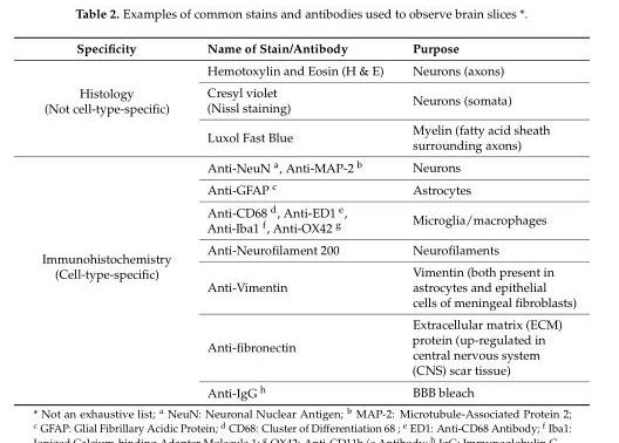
<table><thead><tr><td>Specificity</td><td>Name of Stain/Antibody</td><td>Purpose</td></tr></thead><tbody><tr><td rowspan="3">Histology (Not cell-type-specific)</td><td>Hemotoxylin and Eosin (H &amp; E)</td><td>Neurons (axons)</td></tr><tr><td>Cresyl violet (Nissl staining)</td><td>Neurons (somata)</td></tr><tr><td>Luxol Fast Blue</td><td>Myelin (fatty acid sheath surrounding axons)</td></tr><tr><td rowspan="7">Immunohistochemistry (Cell-type-specific)</td><td>Anti-NeuN <sup>a</sup>, Anti-MAP-2 <sup>b</sup></td><td>Neurons</td></tr><tr><td>Anti-GFAP <sup>c</sup></td><td>Astrocytes</td></tr><tr><td>Anti-CD68 <sup>d</sup>, Anti-ED1 <sup>e</sup>, Anti-Iba1 <sup>f</sup>, Anti-OX42 <sup>g</sup></td><td>Microglia/macrophages</td></tr><tr><td>Anti-Neurofilament 200</td><td>Neurofilaments</td></tr><tr><td>Anti-Vimentin</td><td>Vimentin (both present in astrocytes and epithelial cells of meningeal fibroblasts)</td></tr><tr><td>Anti-fibronectin</td><td>Extracellular matrix (ECM) protein (up-regulated in central nervous system (CNS) scar tissue)</td></tr><tr><td>Anti-IgG <sup>h</sup></td><td>BBB bleach</td></tr></tbody></table>